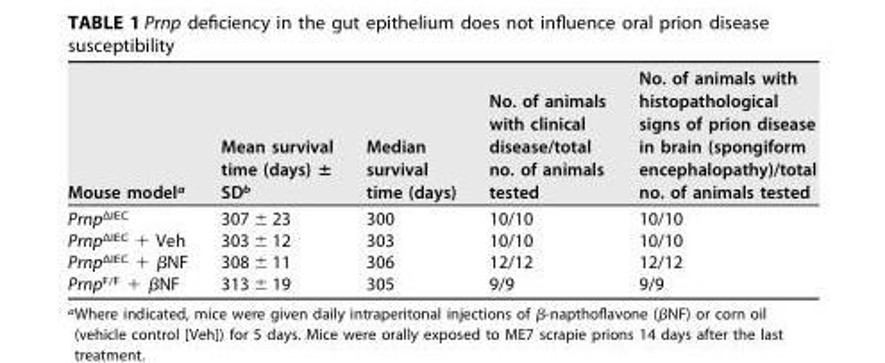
<table><thead><tr><td>Mouse model<sup>a</sup></td><td>Mean survival time (days) ± SD<sup>b</sup></td><td>Median survival time (days)</td><td>No. of animals with clinical disease/total no. of animals tested</td><td>No. of animals with histopathological signs of prion disease in brain (spongiform encephalopathy)/total no. of animals tested</td></tr></thead><tbody><tr><td>Prnp<sup>ΔIEC</sup></td><td>307 ± 23</td><td>300</td><td>10/10</td><td>10/10</td></tr><tr><td>Prnp<sup>ΔIEC</sup> + Veh</td><td>303 ± 12</td><td>303</td><td>10/10</td><td>10/10</td></tr><tr><td>Prnp<sup>ΔIEC</sup> + βNF</td><td>308 ± 11</td><td>306</td><td>12/12</td><td>12/12</td></tr><tr><td>Prnp<sup>F/F</sup> + βNF</td><td>313 ± 19</td><td>305</td><td>9/9</td><td>9/9</td></tr></tbody></table>